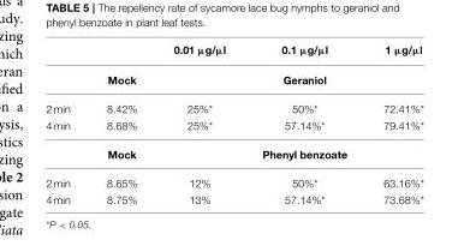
<table><thead><tr><td></td><td></td><td>0.01 µg/µl</td><td>0.1 µg/µl</td><td>1 µg/µl</td></tr></thead><tbody><tr><td></td><td>Mock</td><td></td><td>Geraniol</td><td></td></tr><tr><td>2 min</td><td>8.42%</td><td>25%*</td><td>50%*</td><td>72.41%*</td></tr><tr><td rowspan="2">4 min</td><td>8.68%</td><td>25%*</td><td>57.14%*</td><td>79.41%*</td></tr><tr><td>Mock</td><td></td><td>Phenyl benzoate</td><td></td></tr><tr><td>2 min</td><td>8.65%</td><td>12%</td><td>50%*</td><td>63.16%*</td></tr><tr><td>4 min</td><td>8.75%</td><td>13%</td><td>57.14%*</td><td>73.68%*</td></tr></tbody></table>